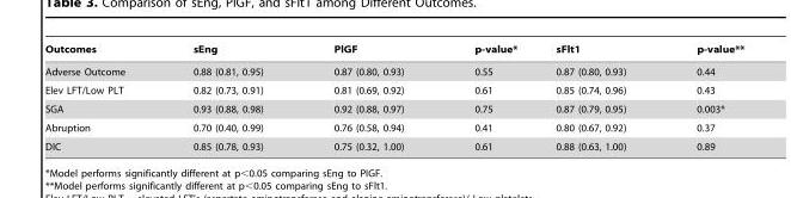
<table><thead><tr><td>Outcomes</td><td>sEng</td><td>PlGF</td><td>p-value*</td><td>sFlt1</td><td>p-value**</td></tr></thead><tbody><tr><td>Adverse Outcome</td><td>0.88 (0.81, 0.95)</td><td>0.87 (0.80, 0.93)</td><td>0.55</td><td>0.87 (0.80, 0.93)</td><td>0.44</td></tr><tr><td>Elev LFT/Low PLT</td><td>0.82 (0.73, 0.91)</td><td>0.81 (0.69, 0.92)</td><td>0.61</td><td>0.85 (0.74, 0.96)</td><td>0.43</td></tr><tr><td>SGA</td><td>0.93 (0.88, 0.98)</td><td>0.92 (0.88, 0.97)</td><td>0.75</td><td>0.87 (0.79, 0.95)</td><td>0.003*</td></tr><tr><td>Abruption</td><td>0.70 (0.40, 0.99)</td><td>0.76 (0.58, 0.94)</td><td>0.41</td><td>0.80 (0.67, 0.92)</td><td>0.37</td></tr><tr><td>DIC</td><td>0.85 (0.78, 0.93)</td><td>0.75 (0.32, 1.00)</td><td>0.61</td><td>0.88 (0.63, 1.00)</td><td>0.89</td></tr></tbody></table>